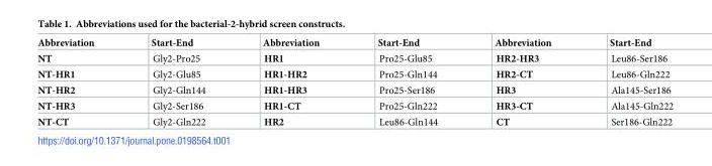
<table><thead><tr><td>Abbreviation</td><td>Start-End</td><td>Abbreviation</td><td>Start-End</td><td>Abbreviation</td><td>Start-End</td></tr></thead><tbody><tr><td>NT</td><td>Gly2-Pro25</td><td>HR1</td><td>Pro25-Glu85</td><td>HR2-HR3</td><td>Leu86-Ser186</td></tr><tr><td>NT-HR1</td><td>Gly2-Glu85</td><td>HR1-HR2</td><td>Pro25-Gln144</td><td>HR2-CT</td><td>Leu86-Gln222</td></tr><tr><td>NT-HR2</td><td>Gly2-Gln144</td><td>HR1-HR3</td><td>Pro25-Ser186</td><td>HR3</td><td>Ala145-Ser186</td></tr><tr><td>NT-HR3</td><td>Gly2-Ser186</td><td>HR1-CT</td><td>Pro25-Gln222</td><td>HR3-CT</td><td>Ala145-Gln222</td></tr><tr><td>NT-CT</td><td>Gly2-Gln222</td><td>HR2</td><td>Leu86-Gln144</td><td>CT</td><td>Ser186-Gln222</td></tr></tbody></table>